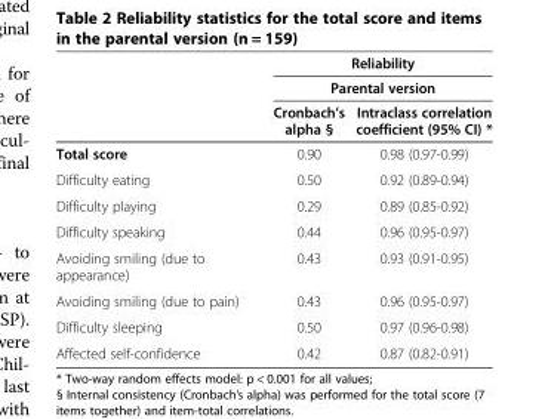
<table><thead><tr><td rowspan="3"></td><td rowspan="2" colspan="2">Reliability Parental version</td></tr><tr></tr><tr><td>Cronbach’s alpha §</td><td>Intraclass correlation coefficient (95% CI) *</td></tr></thead><tbody><tr><td>Total score</td><td>0.90</td><td>0.98 (0.97-0.99)</td></tr><tr><td>Difficulty eating</td><td>0.50</td><td>0.92 (0.89-0.94)</td></tr><tr><td>Difficulty playing</td><td>0.29</td><td>0.89 (0.85-0.92)</td></tr><tr><td>Difficulty speaking</td><td>0.44</td><td>0.96 (0.95-0.97)</td></tr><tr><td>Avoiding smiling (due to appearance)</td><td>0.43</td><td>0.93 (0.91-0.95)</td></tr><tr><td>Avoiding smiling (due to pain)</td><td>0.43</td><td>0.96 (0.95-0.97)</td></tr><tr><td>Difficulty sleeping</td><td>0.50</td><td>0.97 (0.96-0.98)</td></tr><tr><td>Affected self-confidence</td><td>0.42</td><td>0.87 (0.82-0.91)</td></tr></tbody></table>